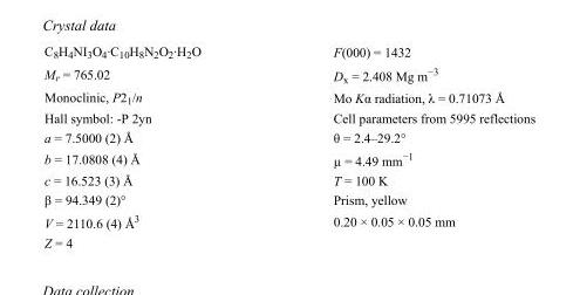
<table><tbody><tr><td>C<sub>8</sub>H<sub>4</sub>NI<sub>3</sub>O<sub>4</sub>·C<sub>10</sub>H<sub>8</sub>N<sub>2</sub>O<sub>2</sub>·H<sub>2</sub>O</td><td>F(000) = 1432</td></tr><tr><td>M<sub>r</sub> = 765.02</td><td>D<sub>x</sub> = 2.408 Mg m<sup>−3</sup></td></tr><tr><td>Monoclinic, P2<sub>1</sub>/n</td><td>Mo Kα radiation, λ = 0.71073 Å</td></tr><tr><td>Hall symbol: -P 2yn</td><td>Cell parameters from 5995 reflections</td></tr><tr><td>a = 7.5000 (2) Å</td><td>θ = 2.4–29.2°</td></tr><tr><td>b = 17.0808 (4) Å</td><td>µ = 4.49 mm<sup>−1</sup></td></tr><tr><td>c = 16.523 (3) Å</td><td>T = 100 K</td></tr><tr><td>β = 94.349 (2)°</td><td>Prism, yellow</td></tr><tr><td>V = 2110.6 (4) Å<sup>3</sup></td><td>0.20 × 0.05 × 0.05 mm</td></tr><tr><td>Z = 4</td><td></td></tr></tbody></table>